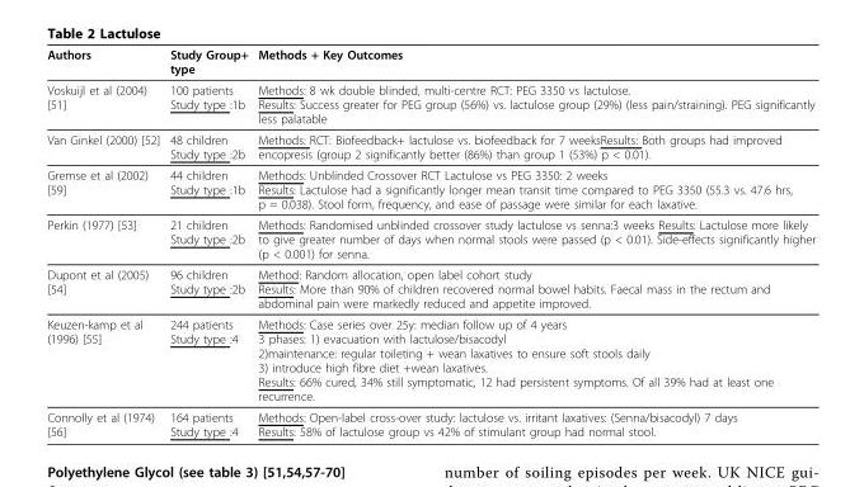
<table><thead><tr><td>Authors</td><td>Study Group+ type</td><td>Methods + Key Outcomes</td></tr></thead><tbody><tr><td>Voskuijl et al (2004) [51]</td><td>100 patients Study type :1b</td><td>Methods: 8 wk double blinded, multi-centre RCT: PEG 3350 vs lactulose. Results: Success greater for PEG group (56%) vs. lactulose group (29%) (less pain/straining). PEG significantly less palatable</td></tr><tr><td>Van Ginkel (2000) [52]</td><td>48 children Study type :2b</td><td>Methods: RCT: Biofeedback+ lactulose vs. biofeedback for 7 weeksResults: Both groups had improved encopresis (group 2 significantly better (86%) than group 1 (53%) p &lt; 0.01).</td></tr><tr><td>Gremse et al (2002) [59]</td><td>44 children Study type :1b</td><td>Methods: Unblinded Crossover RCT Lactulose vs PEG 3350: 2 weeks Results: Lactulose had a significantly longer mean transit time compared to PEG 3350 (55.3 vs. 47.6 hrs, p = 0.038). Stool form, frequency, and ease of passage were similar for each laxative.</td></tr><tr><td>Perkin (1977) [53]</td><td>21 children Study type :2b</td><td>Methods: Randomised unblinded crossover study lactulose vs senna:3 weeks Results: Lactulose more likely to give greater number of days when normal stools were passed (p &lt; 0.01). Side-effects significantly higher (p &lt; 0.001) for senna.</td></tr><tr><td>Dupont et al (2005) [54]</td><td>96 children Study type :2b</td><td>Method: Random allocation, open label cohort study Results: More than 90% of children recovered normal bowel habits. Faecal mass in the rectum and abdominal pain were markedly reduced and appetite improved.</td></tr><tr><td>Keuzen-kamp et al (1996) [55]</td><td>244 patients Study type :4</td><td>Methods: Case series over 25y: median follow up of 4 years 3 phases: 1) evacuation with lactulose/bisacodyl 2)maintenance: regular toileting + wean laxatives to ensure soft stools daily 3) introduce high fibre diet +wean laxatives. Results: 66% cured, 34% still symptomatic, 12 had persistent symptoms. Of all 39% had at least one recurrence.</td></tr><tr><td>Connolly et al (1974) [56]</td><td>164 patients Study type :4</td><td>Methods: Open-label cross-over study: lactulose vs. irritant laxatives: (Senna/bisacodyl) 7 days Results: 58% of lactulose group vs 42% of stimulant group had normal stool.</td></tr></tbody></table>